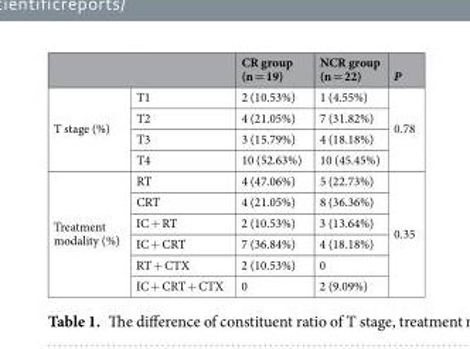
<table><thead><tr><td></td><td></td><td>CR group (n = 19)</td><td>NCR group (n = 22)</td><td>P</td></tr></thead><tbody><tr><td rowspan="4">T stage (%)</td><td>T1</td><td>2 (10.53%)</td><td>1 (4.55%)</td><td rowspan="4">0.78</td></tr><tr><td>T2</td><td>4 (21.05%)</td><td>7 (31.82%)</td></tr><tr><td>T3</td><td>3 (15.79%)</td><td>4 (18.18%)</td></tr><tr><td>T4</td><td>10 (52.63%)</td><td>10 (45.45%)</td></tr><tr><td rowspan="6">Treatment modality (%)</td><td>RT</td><td>4 (47.06%)</td><td>5 (22.73%)</td><td rowspan="6">0.35</td></tr><tr><td>CRT</td><td>4 (21.05%)</td><td>8 (36.36%)</td></tr><tr><td>IC + RT</td><td>2 (10.53%)</td><td>3 (13.64%)</td></tr><tr><td>IC + CRT</td><td>7 (36.84%)</td><td>4 (18.18%)</td></tr><tr><td>RT + CTX</td><td>2 (10.53%)</td><td>0</td></tr><tr><td>IC + CRT + CTX</td><td>0</td><td>2 (9.09%)</td></tr></tbody></table>